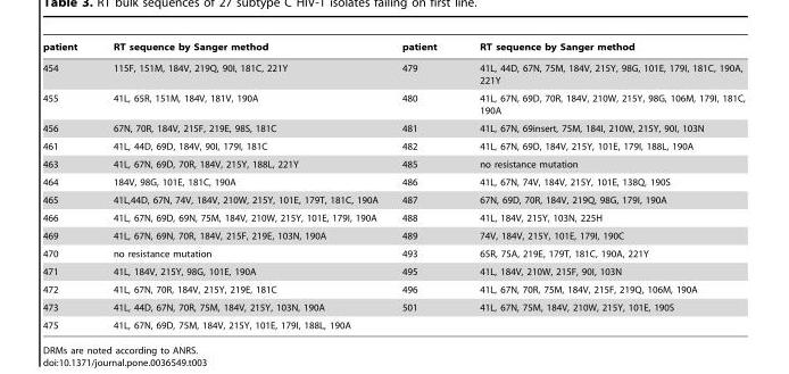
<table><thead><tr><td>patient</td><td>RT sequence by Sanger method</td><td>patient</td><td>RT sequence by Sanger method</td></tr></thead><tbody><tr><td>454</td><td>115F, 151M, 184V, 219Q, 90I, 181C, 221Y</td><td>479</td><td>41L, 44D, 67N, 75M, 184V, 215Y, 98G, 101E, 179I, 181C, 190A, 221Y</td></tr><tr><td>455</td><td>41L, 65R, 151M, 184V, 181V, 190A</td><td>480</td><td>41L, 67N, 69D, 70R, 184V, 210W, 215Y, 98G, 106M, 179I, 181C, 190A</td></tr><tr><td>456</td><td>67N, 70R, 184V, 215F, 219E, 98S, 181C</td><td>481</td><td>41L, 67N, 69insert, 75M, 184I, 210W, 215Y, 90I, 103N</td></tr><tr><td>461</td><td>41L, 44D, 69D, 184V, 90I, 179I, 181C</td><td>482</td><td>41L, 67N, 69D, 184V, 215Y, 101E, 179I, 188L, 190A</td></tr><tr><td>463</td><td>41L, 67N, 69D, 70R, 184V, 215Y, 188L, 221Y</td><td>485</td><td>no resistance mutation</td></tr><tr><td>464</td><td>184V, 98G, 101E, 181C, 190A</td><td>486</td><td>41L, 67N, 74V, 184V, 215Y, 101E, 138Q, 190S</td></tr><tr><td>465</td><td>41L,44D, 67N, 74V, 184V, 210W, 215Y, 101E, 179T, 181C, 190A</td><td>487</td><td>67N, 69D, 70R, 184V, 219Q, 98G, 179I, 190A</td></tr><tr><td>466</td><td>41L, 67N, 69D, 69N, 75M, 184V, 210W, 215Y, 101E, 179I, 190A</td><td>488</td><td>41L, 184V, 215Y, 103N, 225H</td></tr><tr><td>469</td><td>41L, 67N, 69N, 70R, 184V, 215F, 219E, 103N, 190A</td><td>489</td><td>74V, 184V, 215Y, 101E, 179I, 190C</td></tr><tr><td>470</td><td>no resistance mutation</td><td>493</td><td>65R, 75A, 219E, 179T, 181C, 190A, 221Y</td></tr><tr><td>471</td><td>41L, 184V, 215Y, 98G, 101E, 190A</td><td>495</td><td>41L, 184V, 210W, 215F, 90I, 103N</td></tr><tr><td>472</td><td>41L, 67N, 70R, 184V, 215Y, 219E, 181C</td><td>496</td><td>41L, 67N, 70R, 75M, 184V, 215F, 219Q, 106M, 190A</td></tr><tr><td>473</td><td>41L, 44D, 67N, 70R, 75M, 184V, 215Y, 103N, 190A</td><td>501</td><td>41L, 67N, 75M, 184V, 210W, 215Y, 101E, 190S</td></tr><tr><td>475</td><td>41L, 67N, 69D, 75M, 184V, 215Y, 101E, 179I, 188L, 190A</td><td></td><td></td></tr></tbody></table>